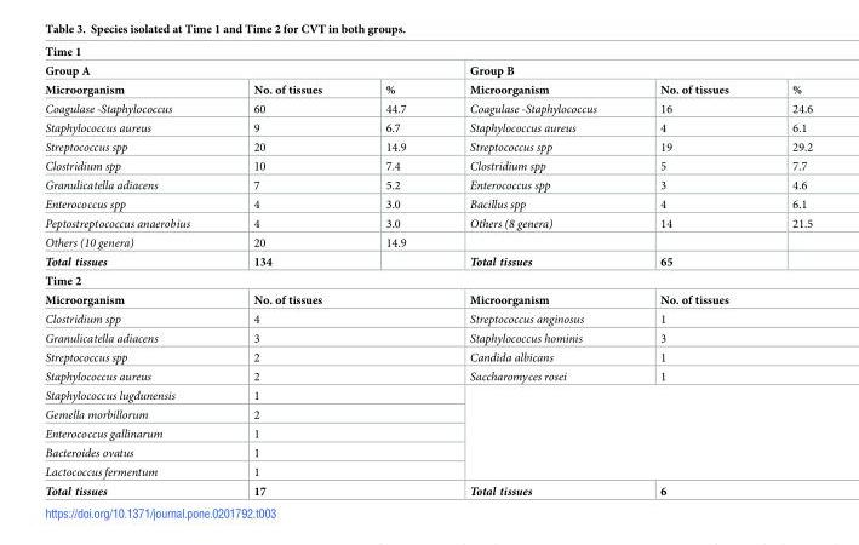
<table><tbody><tr><td colspan="6">Time 1</td></tr><tr><td colspan="3">Group A</td><td colspan="3">Group B</td></tr><tr><td>Microorganism</td><td>No. of tissues</td><td>%</td><td>Microorganism</td><td>No. of tissues</td><td>%</td></tr><tr><td>Coagulase -Staphylococcus</td><td>60</td><td>44.7</td><td>Coagulase -Staphylococcus</td><td>16</td><td>24.6</td></tr><tr><td>Staphylococcus aureus</td><td>9</td><td>6.7</td><td>Staphylococcus aureus</td><td>4</td><td>6.1</td></tr><tr><td>Streptococcus spp</td><td>20</td><td>14.9</td><td>Streptococcus spp</td><td>19</td><td>29.2</td></tr><tr><td>Clostridium spp</td><td>10</td><td>7.4</td><td>Clostridium spp</td><td>5</td><td>7.7</td></tr><tr><td>Granulicatella adiacens</td><td>7</td><td>5.2</td><td>Enterococcus spp</td><td>3</td><td>4.6</td></tr><tr><td>Enterococcus spp</td><td>4</td><td>3.0</td><td>Bacillus spp</td><td>4</td><td>6.1</td></tr><tr><td>Peptostreptococcus anaerobius</td><td>4</td><td>3.0</td><td>Others (8 genera)</td><td>14</td><td>21.5</td></tr><tr><td>Others (10 genera)</td><td>20</td><td>14.9</td><td></td><td></td><td></td></tr><tr><td>Total tissues</td><td>134</td><td></td><td>Total tissues</td><td>65</td><td></td></tr><tr><td colspan="6">Time 2</td></tr><tr><td>Microorganism</td><td colspan="2">No. of tissues</td><td>Microorganism</td><td colspan="2">No. of tissues</td></tr><tr><td>Clostridium spp</td><td colspan="2">4</td><td>Streptococcus anginosus</td><td colspan="2">1</td></tr><tr><td>Granulicatella adiacens</td><td colspan="2">3</td><td>Staphylococcus hominis</td><td colspan="2">3</td></tr><tr><td>Streptococcus spp</td><td colspan="2">2</td><td>Candida albicans</td><td colspan="2">1</td></tr><tr><td>Staphylococcus aureus</td><td colspan="2">2</td><td>Saccharomyces rosei</td><td colspan="2">1</td></tr><tr><td>Staphylococcus lugdunensis</td><td colspan="2">1</td><td rowspan="5" colspan="3"></td></tr><tr><td>Gemella morbillorum</td><td colspan="2">2</td></tr><tr><td>Enterococcus gallinarum</td><td colspan="2">1</td></tr><tr><td>Bacteroides ovatus</td><td colspan="2">1</td></tr><tr><td>Lactococcus fermentum</td><td colspan="2">1</td></tr><tr><td>Total tissues</td><td colspan="2">17</td><td>Total tissues</td><td colspan="2">6</td></tr></tbody></table>